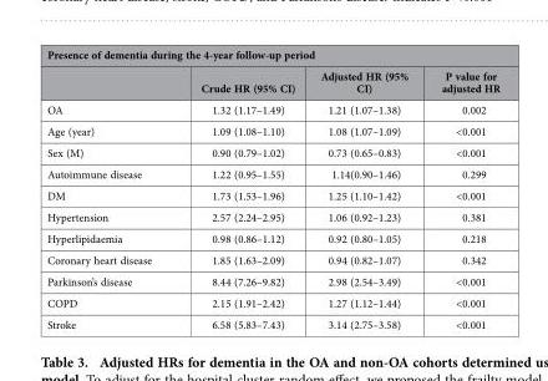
<table><thead><tr><td colspan="4">Presence of dementia during the 4-year follow-up period</td></tr><tr><td></td><td>Crude HR (95% CI)</td><td>Adjusted HR (95% CI)</td><td>P value for adjusted HR</td></tr></thead><tbody><tr><td>OA</td><td>1.32 (1.17–1.49)</td><td>1.21 (1.07–1.38)</td><td>0.002</td></tr><tr><td>Age (year)</td><td>1.09 (1.08–1.10)</td><td>1.08 (1.07–1.09)</td><td>&lt;0.001</td></tr><tr><td>Sex (M)</td><td>0.90 (0.79–1.02)</td><td>0.73 (0.65–0.83)</td><td>&lt;0.001</td></tr><tr><td>Autoimmune disease</td><td>1.22 (0.95–1.55)</td><td>1.14(0.90–1.46)</td><td>0.299</td></tr><tr><td>DM</td><td>1.73 (1.53–1.96)</td><td>1.25 (1.10–1.42)</td><td>&lt;0.001</td></tr><tr><td>Hypertension</td><td>2.57 (2.24–2.95)</td><td>1.06 (0.92–1.23)</td><td>0.381</td></tr><tr><td>Hyperlipidaemia</td><td>0.98 (0.86–1.12)</td><td>0.92 (0.80–1.05)</td><td>0.218</td></tr><tr><td>Coronary heart disease</td><td>1.85 (1.63–2.09)</td><td>0.94 (0.82–1.07)</td><td>0.342</td></tr><tr><td>Parkinson’s disease</td><td>8.44 (7.26–9.82)</td><td>2.98 (2.54–3.49)</td><td>&lt;0.001</td></tr><tr><td>COPD</td><td>2.15 (1.91–2.42)</td><td>1.27 (1.12–1.44)</td><td>&lt;0.001</td></tr><tr><td>Stroke</td><td>6.58 (5.83–7.43)</td><td>3.14 (2.75–3.58)</td><td>&lt;0.001</td></tr></tbody></table>